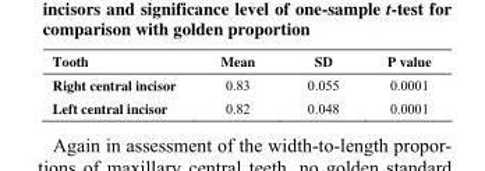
<table><tbody><tr><td>Tooth</td><td>Mean</td><td>SD</td><td>P value</td></tr><tr><td>Right central incisor</td><td>0.83</td><td>0.055</td><td>0.0001</td></tr><tr><td>Left central incisor</td><td>0.82</td><td>0.048</td><td>0.0001</td></tr></tbody></table>